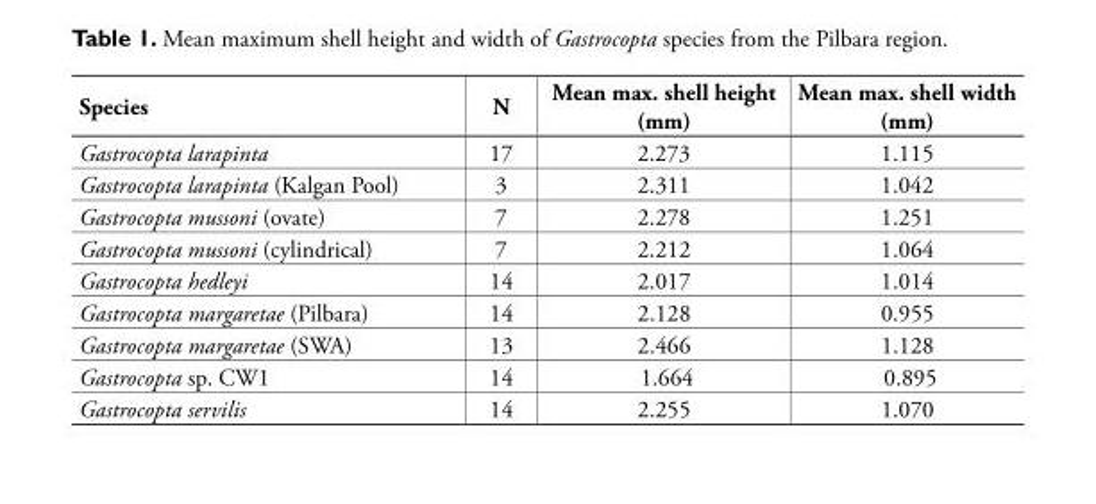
<table><thead><tr><td>Species</td><td>N</td><td>Mean max. shell height (mm)</td><td>Mean max. shell width (mm)</td></tr></thead><tbody><tr><td>Gastrocopta larapinta</td><td>17</td><td>2.273</td><td>1.115</td></tr><tr><td>Gastrocopta larapinta (Kalgan Pool)</td><td>3</td><td>2.311</td><td>1.042</td></tr><tr><td>Gastrocopta mussoni (ovate)</td><td>7</td><td>2.278</td><td>1.251</td></tr><tr><td>Gastrocopta mussoni (cylindrical)</td><td>7</td><td>2.212</td><td>1.064</td></tr><tr><td>Gastrocopta hedleyi</td><td>14</td><td>2.017</td><td>1.014</td></tr><tr><td>Gastrocopta margaretae (Pilbara)</td><td>14</td><td>2.128</td><td>0.955</td></tr><tr><td>Gastrocopta margaretae (SWA)</td><td>13</td><td>2.466</td><td>1.128</td></tr><tr><td>Gastrocopta sp. CW1</td><td>14</td><td>1.664</td><td>0.895</td></tr><tr><td>Gastrocopta servilis</td><td>14</td><td>2.255</td><td>1.070</td></tr></tbody></table>